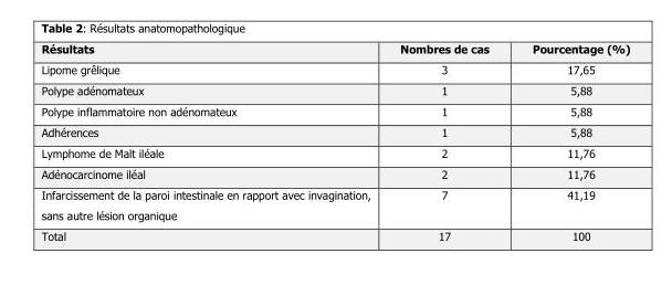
<table><thead><tr><td>Résultats</td><td>Nombres de cas</td><td>Pourcentage (%)</td></tr></thead><tbody><tr><td>Lipome grêlique</td><td>3</td><td>17,65</td></tr><tr><td>Polype adénomateux</td><td>1</td><td>5,88</td></tr><tr><td>Polype inflammatoire non adénomateux</td><td>1</td><td>5,88</td></tr><tr><td>Adhérences</td><td>1</td><td>5,88</td></tr><tr><td>Lymphome de Malt iléale</td><td>2</td><td>11,76</td></tr><tr><td>Adénocarcinome iléal</td><td>2</td><td>11,76</td></tr><tr><td>Infarcissement de la paroi intestinale en rapport avec invagination, sans autre lésion organique</td><td>7</td><td>41,19</td></tr><tr><td>Total</td><td>17</td><td>100</td></tr></tbody></table>